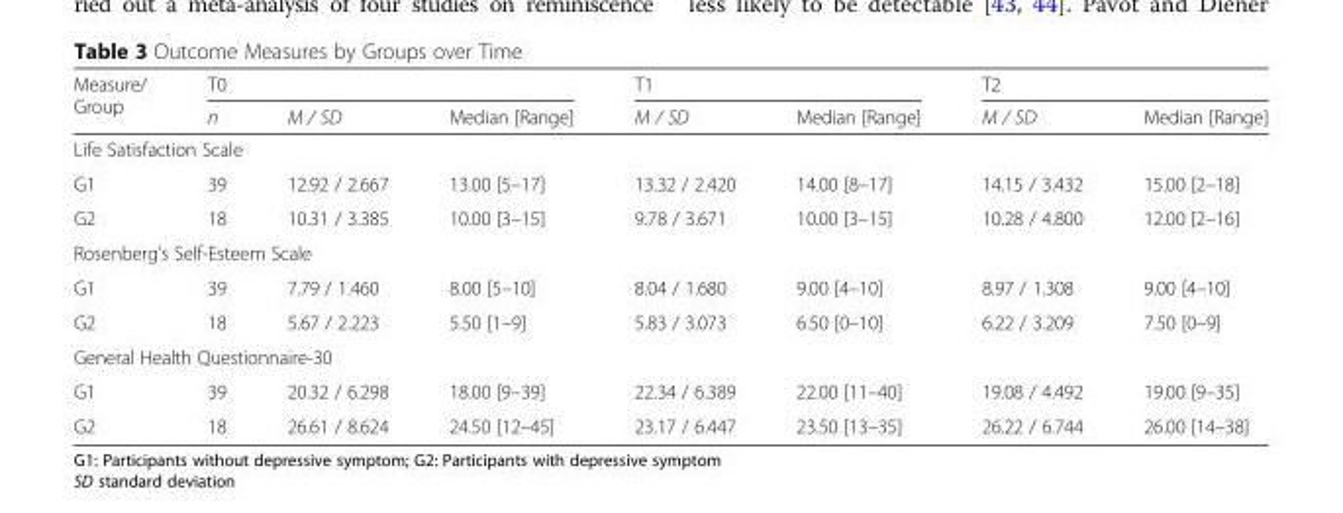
<table><thead><tr><td rowspan="2">Measure/ Group</td><td colspan="3">T0</td><td colspan="2">T1</td><td colspan="2">T2</td></tr><tr><td>n</td><td>M / SD</td><td>Median [Range]</td><td>M / SD</td><td>Median [Range]</td><td>M / SD</td><td>Median [Range]</td></tr></thead><tbody><tr><td colspan="8">Life Satisfaction Scale</td></tr><tr><td>G1</td><td>39</td><td>12.92 / 2.667</td><td>13.00 [5–17]</td><td>13.32 / 2.420</td><td>14.00 [8–17]</td><td>14.15 / 3.432</td><td>15.00 [2–18]</td></tr><tr><td>G2</td><td>18</td><td>10.31 / 3.385</td><td>10.00 [3–15]</td><td>9.78 / 3.671</td><td>10.00 [3–15]</td><td>10.28 / 4.800</td><td>12.00 [2–16]</td></tr><tr><td colspan="8">Rosenberg’s Self-Esteem Scale</td></tr><tr><td>G1</td><td>39</td><td>7.79 / 1.460</td><td>8.00 [5–10]</td><td>8.04 / 1.680</td><td>9.00 [4–10]</td><td>8.97 / 1.308</td><td>9.00 [4–10]</td></tr><tr><td>G2</td><td>18</td><td>5.67 / 2.223</td><td>5.50 [1–9]</td><td>5.83 / 3.073</td><td>6.50 [0–10]</td><td>6.22 / 3.209</td><td>7.50 [0–9]</td></tr><tr><td colspan="8">General Health Questionnaire-30</td></tr><tr><td>G1</td><td>39</td><td>20.32 / 6.298</td><td>18.00 [9–39]</td><td>22.34 / 6.389</td><td>22.00 [11–40]</td><td>19.08 / 4.492</td><td>19.00 [9–35]</td></tr><tr><td>G2</td><td>18</td><td>26.61 / 8.624</td><td>24.50 [12–45]</td><td>23.17 / 6.447</td><td>23.50 [13–35]</td><td>26.22 / 6.744</td><td>26.00 [14–38]</td></tr></tbody></table>